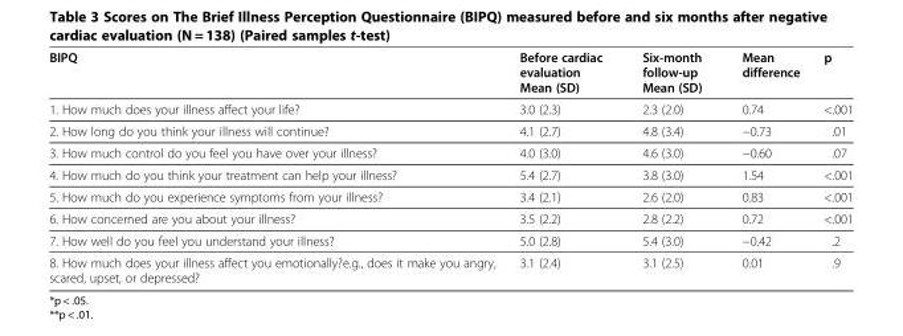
<table><thead><tr><td>BIPQ</td><td>Before cardiac evaluation Mean (SD)</td><td>Six-month follow-up Mean (SD)</td><td>Mean difference</td><td>p</td></tr></thead><tbody><tr><td>1. How much does your illness affect your life?</td><td>3.0 (2.3)</td><td>2.3 (2.0)</td><td>0.74</td><td>&lt;.001</td></tr><tr><td>2. How long do you think your illness will continue?</td><td>4.1 (2.7)</td><td>4.8 (3.4)</td><td>−0.73</td><td>.01</td></tr><tr><td>3. How much control do you feel you have over your illness?</td><td>4.0 (3.0)</td><td>4.6 (3.0)</td><td>−0.60</td><td>.07</td></tr><tr><td>4. How much do you think your treatment can help your illness?</td><td>5.4 (2.7)</td><td>3.8 (3.0)</td><td>1.54</td><td>&lt;.001</td></tr><tr><td>5. How much do you experience symptoms from your illness?</td><td>3.4 (2.1)</td><td>2.6 (2.0)</td><td>0.83</td><td>&lt;.001</td></tr><tr><td>6. How concerned are you about your illness?</td><td>3.5 (2.2)</td><td>2.8 (2.2)</td><td>0.72</td><td>&lt;.001</td></tr><tr><td>7. How well do you feel you understand your illness?</td><td>5.0 (2.8)</td><td>5.4 (3.0)</td><td>−0.42</td><td>.2</td></tr><tr><td>8. How much does your illness affect you emotionally?e.g., does it make you angry, scared, upset, or depressed?</td><td>3.1 (2.4)</td><td>3.1 (2.5)</td><td>0.01</td><td>.9</td></tr></tbody></table>